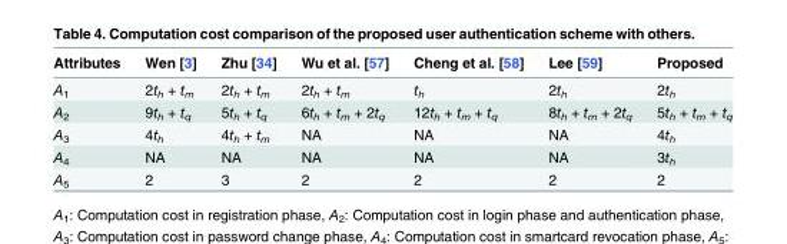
<table><thead><tr><td>Attributes</td><td>Wen [3]</td><td>Zhu [34]</td><td>Wu et al. [57]</td><td>Cheng et al. [58]</td><td>Lee [59]</td><td>Proposed</td></tr></thead><tbody><tr><td>A<sub>1</sub></td><td>2t<sub>h</sub> + t<sub>m</sub></td><td>2t<sub>h</sub> + t<sub>m</sub></td><td>2t<sub>h</sub> + t<sub>m</sub></td><td>t<sub>h</sub></td><td>2t<sub>h</sub></td><td>2t<sub>h</sub></td></tr><tr><td>A<sub>2</sub></td><td>9t<sub>h</sub> + t<sub>q</sub></td><td>5t<sub>h</sub> + t<sub>q</sub></td><td>6t<sub>h</sub> + t<sub>m</sub> + 2t<sub>q</sub></td><td>12t<sub>h</sub> + t<sub>m</sub> + t<sub>q</sub></td><td>8t<sub>h</sub> + t<sub>m</sub> + 2t<sub>q</sub></td><td>5t<sub>h</sub> + t<sub>m</sub> + t<sub>q</sub></td></tr><tr><td>A<sub>3</sub></td><td>4t<sub>h</sub></td><td>4t<sub>h</sub> + t<sub>m</sub></td><td>NA</td><td>NA</td><td>NA</td><td>4t<sub>h</sub></td></tr><tr><td>A<sub>4</sub></td><td>NA</td><td>NA</td><td>NA</td><td>NA</td><td>NA</td><td>3t<sub>h</sub></td></tr><tr><td>A<sub>5</sub></td><td>2</td><td>3</td><td>2</td><td>2</td><td>2</td><td>2</td></tr></tbody></table>